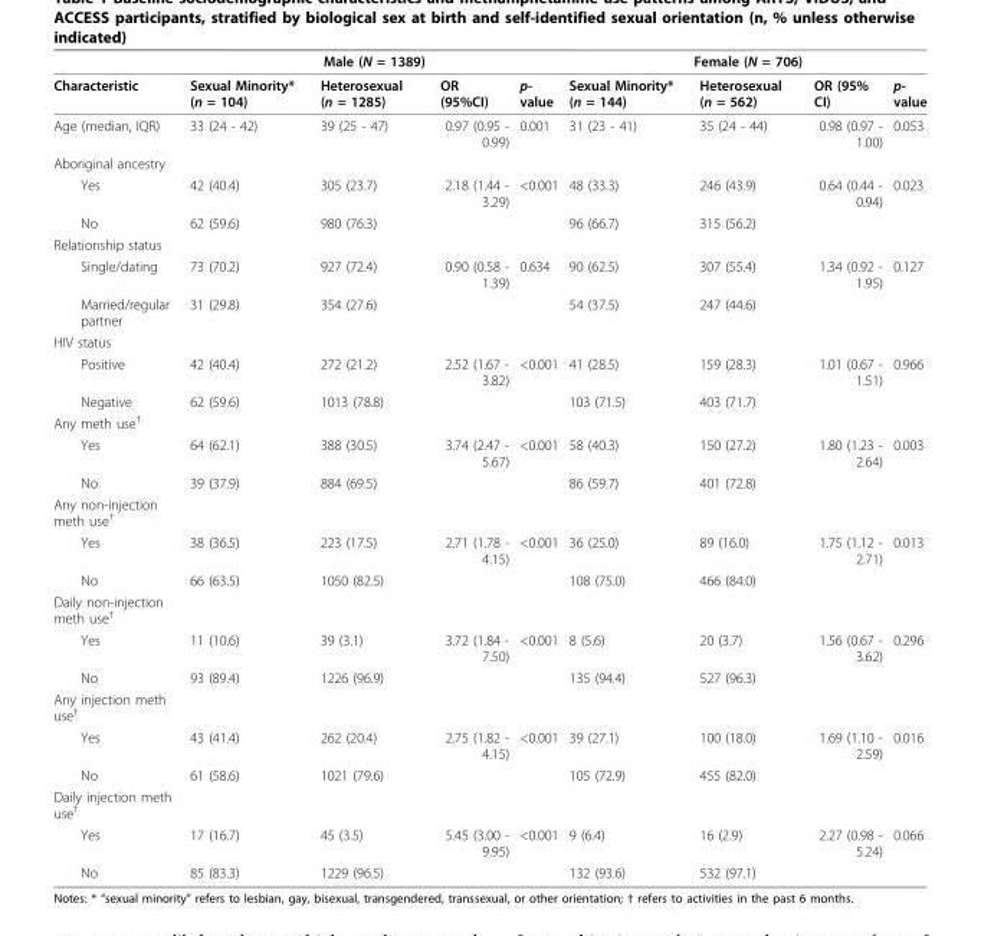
<table><thead><tr><td rowspan="2">Characteristic</td><td colspan="4">Male (N = 1389)</td><td colspan="4">Female (N = 706)</td></tr><tr><td>Sexual Minority* (n = 104)</td><td>Heterosexual (n = 1285)</td><td>OR (95%CI)</td><td>p- value</td><td>Sexual Minority* (n = 144)</td><td>Heterosexual (n = 562)</td><td>OR (95% CI)</td><td>p- value</td></tr></thead><tbody><tr><td>Age (median, IQR)</td><td>33 (24 - 42)</td><td>39 (25 - 47)</td><td>0.97 (0.95 - 0.99)</td><td>0.001</td><td>31 (23 - 41)</td><td>35 (24 - 44)</td><td>0.98 (0.97 - 1.00)</td><td>0.053</td></tr><tr><td colspan="9">Aboriginal ancestry</td></tr><tr><td>Yes</td><td>42 (40.4)</td><td>305 (23.7)</td><td>2.18 (1.44 - 3.29)</td><td>&lt;0.001</td><td>48 (33.3)</td><td>246 (43.9)</td><td>0.64 (0.44 - 0.94)</td><td>0.023</td></tr><tr><td>No</td><td>62 (59.6)</td><td>980 (76.3)</td><td></td><td></td><td>96 (66.7)</td><td>315 (56.2)</td><td></td><td></td></tr><tr><td colspan="9">Relationship status</td></tr><tr><td>Single/dating</td><td>73 (70.2)</td><td>927 (72.4)</td><td>0.90 (0.58 - 1.39)</td><td>0.634</td><td>90 (62.5)</td><td>307 (55.4)</td><td>1.34 (0.92 - 1.95)</td><td>0.127</td></tr><tr><td>Married/regular partner</td><td>31 (29.8)</td><td>354 (27.6)</td><td></td><td></td><td>54 (37.5)</td><td>247 (44.6)</td><td></td><td></td></tr><tr><td colspan="9">HIV status</td></tr><tr><td>Positive</td><td>42 (40.4)</td><td>272 (21.2)</td><td>2.52 (1.67 - 3.82)</td><td>&lt;0.001</td><td>41 (28.5)</td><td>159 (28.3)</td><td>1.01 (0.67 - 1.51)</td><td>0.966</td></tr><tr><td>Negative</td><td>62 (59.6)</td><td>1013 (78.8)</td><td></td><td></td><td>103 (71.5)</td><td>403 (71.7)</td><td></td><td></td></tr><tr><td colspan="9">Any meth use<sup>†</sup></td></tr><tr><td>Yes</td><td>64 (62.1)</td><td>388 (30.5)</td><td>3.74 (2.47 - 5.67)</td><td>&lt;0.001</td><td>58 (40.3)</td><td>150 (27.2)</td><td>1.80 (1.23 - 2.64)</td><td>0.003</td></tr><tr><td>No</td><td>39 (37.9)</td><td>884 (69.5)</td><td></td><td></td><td>86 (59.7)</td><td>401 (72.8)</td><td></td><td></td></tr><tr><td colspan="9">Any non-injection meth use<sup>†</sup></td></tr><tr><td>Yes</td><td>38 (36.5)</td><td>223 (17.5)</td><td>2.71 (1.78 - 4.15)</td><td>&lt;0.001</td><td>36 (25.0)</td><td>89 (16.0)</td><td>1.75 (1.12 - 2.71)</td><td>0.013</td></tr><tr><td>No</td><td>66 (63.5)</td><td>1050 (82.5)</td><td></td><td></td><td>108 (75.0)</td><td>466 (84.0)</td><td></td><td></td></tr><tr><td colspan="9">Daily non-injection meth use<sup>†</sup></td></tr><tr><td>Yes</td><td>11 (10.6)</td><td>39 (3.1)</td><td>3.72 (1.84 - 7.50)</td><td>&lt;0.001</td><td>8 (5.6)</td><td>20 (3.7)</td><td>1.56 (0.67 - 3.62)</td><td>0.296</td></tr><tr><td>No</td><td>93 (89.4)</td><td>1226 (96.9)</td><td></td><td></td><td>135 (94.4)</td><td>527 (96.3)</td><td></td><td></td></tr><tr><td colspan="9">Any injection meth use<sup>†</sup></td></tr><tr><td>Yes</td><td>43 (41.4)</td><td>262 (20.4)</td><td>2.75 (1.82 - 4.15)</td><td>&lt;0.001</td><td>39 (27.1)</td><td>100 (18.0)</td><td>1.69 (1.10 - 2.59)</td><td>0.016</td></tr><tr><td>No</td><td>61 (58.6)</td><td>1021 (79.6)</td><td></td><td></td><td>105 (72.9)</td><td>455 (82.0)</td><td></td><td></td></tr><tr><td colspan="9">Daily injection meth use<sup>†</sup></td></tr><tr><td>Yes</td><td>17 (16.7)</td><td>45 (3.5)</td><td>5.45 (3.00 - 9.95)</td><td>&lt;0.001</td><td>9 (6.4)</td><td>16 (2.9)</td><td>2.27 (0.98 - 5.24)</td><td>0.066</td></tr><tr><td>No</td><td>85 (83.3)</td><td>1229 (96.5)</td><td></td><td></td><td>132 (93.6)</td><td>532 (97.1)</td><td></td><td></td></tr></tbody></table>